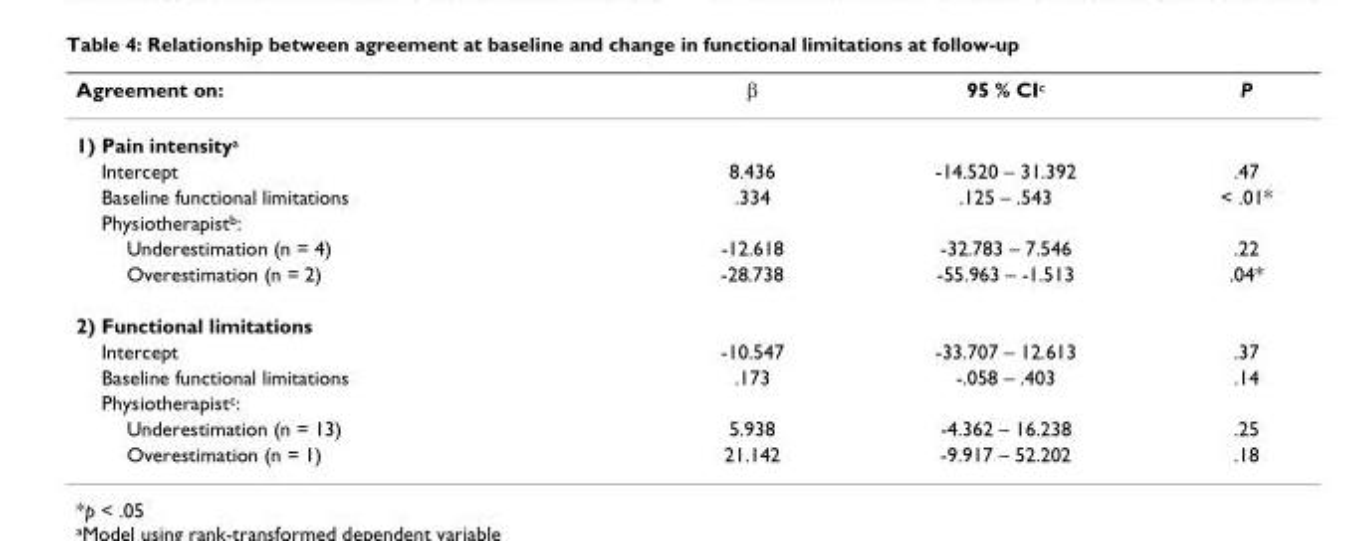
<table><thead><tr><td>Agreement on:</td><td>β</td><td>95 % CIc</td><td>P</td></tr></thead><tbody><tr><td colspan="4">1) Pain intensitya</td></tr><tr><td>Intercept</td><td>8.436</td><td>-14.520 – 31.392</td><td>.47</td></tr><tr><td>Baseline functional limitations</td><td>.334</td><td>.125 – .543</td><td>&lt; .01*</td></tr><tr><td colspan="4">Physiotherapistb:</td></tr><tr><td>Underestimation (n = 4)</td><td>-12.618</td><td>-32.783 – 7.546</td><td>.22</td></tr><tr><td>Overestimation (n = 2)</td><td>-28.738</td><td>-55.963 – -1.513</td><td>.04*</td></tr><tr><td colspan="4">2) Functional limitations</td></tr><tr><td>Intercept</td><td>-10.547</td><td>-33.707 – 12.613</td><td>.37</td></tr><tr><td>Baseline functional limitations</td><td>.173</td><td>-.058 – .403</td><td>.14</td></tr><tr><td colspan="4">Physiotherapistc:</td></tr><tr><td>Underestimation (n = 13)</td><td>5.938</td><td>-4.362 – 16.238</td><td>.25</td></tr><tr><td>Overestimation (n = 1)</td><td>21.142</td><td>-9.917 – 52.202</td><td>.18</td></tr></tbody></table>